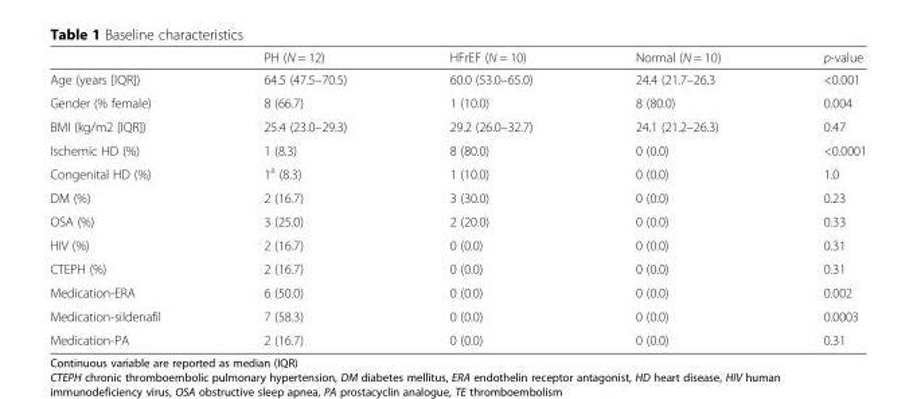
<table><thead><tr><td></td><td>PH (N = 12)</td><td>HFrEF (N = 10)</td><td>Normal (N = 10)</td><td>p-value</td></tr></thead><tbody><tr><td>Age (years [IQR])</td><td>64.5 (47.5–70.5)</td><td>60.0 (53.0–65.0)</td><td>24.4 (21.7–26.3</td><td>&lt;0.001</td></tr><tr><td>Gender (% female)</td><td>8 (66.7)</td><td>1 (10.0)</td><td>8 (80.0)</td><td>0.004</td></tr><tr><td>BMI (kg/m2 [IQR])</td><td>25.4 (23.0–29.3)</td><td>29.2 (26.0–32.7)</td><td>24.1 (21.2–26.3)</td><td>0.47</td></tr><tr><td>Ischemic HD (%)</td><td>1 (8.3)</td><td>8 (80.0)</td><td>0 (0.0)</td><td>&lt;0.0001</td></tr><tr><td>Congenital HD (%)</td><td>1<sup>a</sup> (8.3)</td><td>1 (10.0)</td><td>0 (0.0)</td><td>1.0</td></tr><tr><td>DM (%)</td><td>2 (16.7)</td><td>3 (30.0)</td><td>0 (0.0)</td><td>0.23</td></tr><tr><td>OSA (%)</td><td>3 (25.0)</td><td>2 (20.0)</td><td>0 (0.0)</td><td>0.33</td></tr><tr><td>HIV (%)</td><td>2 (16.7)</td><td>0 (0.0)</td><td>0 (0.0)</td><td>0.31</td></tr><tr><td>CTEPH (%)</td><td>2 (16.7)</td><td>0 (0.0)</td><td>0 (0.0)</td><td>0.31</td></tr><tr><td>Medication-ERA</td><td>6 (50.0)</td><td>0 (0.0)</td><td>0 (0.0)</td><td>0.002</td></tr><tr><td>Medication-sildenafil</td><td>7 (58.3)</td><td>0 (0.0)</td><td>0 (0.0)</td><td>0.0003</td></tr><tr><td>Medication-PA</td><td>2 (16.7)</td><td>0 (0.0)</td><td>0 (0.0)</td><td>0.31</td></tr></tbody></table>